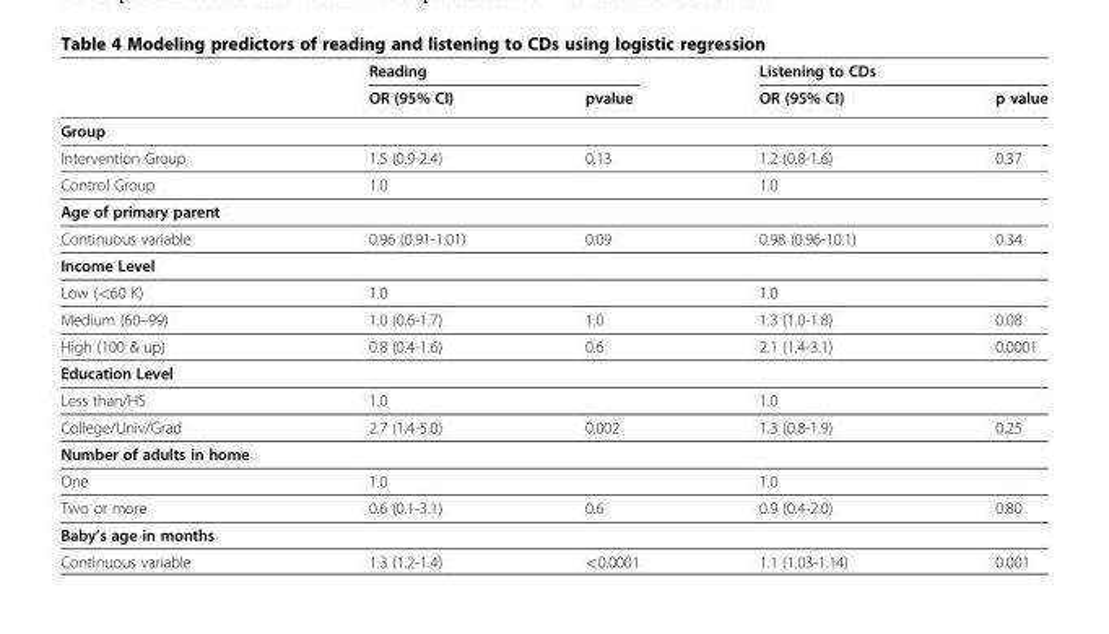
<table><thead><tr><td rowspan="2"></td><td rowspan="2">Reading OR (95% CI)</td><td rowspan="2">pvalue</td><td rowspan="2">Listening to CDs OR (95% CI)</td><td rowspan="2">p value</td></tr><tr></tr></thead><tbody><tr><td colspan="5">Group</td></tr><tr><td>Intervention Group</td><td>1.5 (0.9-2.4)</td><td>0.13</td><td>1.2 (0.8-1.6)</td><td>0.37</td></tr><tr><td>Control Group</td><td>1.0</td><td></td><td>1.0</td><td></td></tr><tr><td colspan="5">Age of primary parent</td></tr><tr><td>Continuous variable</td><td>0.96 (0.91-1.01)</td><td>0.09</td><td>0.98 (0.96-10.1)</td><td>0.34</td></tr><tr><td colspan="5">Income Level</td></tr><tr><td>Low (&lt;60 K)</td><td>1.0</td><td></td><td>1.0</td><td></td></tr><tr><td>Medium (60–99)</td><td>1.0 (0.6-1.7)</td><td>1.0</td><td>1.3 (1.0-1.8)</td><td>0.08</td></tr><tr><td>High (100 &amp; up)</td><td>0.8 (0.4-1.6)</td><td>0.6</td><td>2.1 (1.4-3.1)</td><td>0.0001</td></tr><tr><td colspan="5">Education Level</td></tr><tr><td>Less than/HS</td><td>1.0</td><td></td><td>1.0</td><td></td></tr><tr><td>College/Univ/Grad</td><td>2.7 (1.4-5.0)</td><td>0.002</td><td>1.3 (0.8-1.9)</td><td>0.25</td></tr><tr><td colspan="5">Number of adults in home</td></tr><tr><td>One</td><td>1.0</td><td></td><td>1.0</td><td></td></tr><tr><td>Two or more</td><td>0.6 (0.1-3.1)</td><td>0.6</td><td>0.9 (0.4-2.0)</td><td>0.80</td></tr><tr><td colspan="5">Baby’s age in months</td></tr><tr><td>Continuous variable</td><td>1.3 (1.2-1.4)</td><td>&lt;0.0001</td><td>1.1 (1.03-1.14)</td><td>0.001</td></tr></tbody></table>